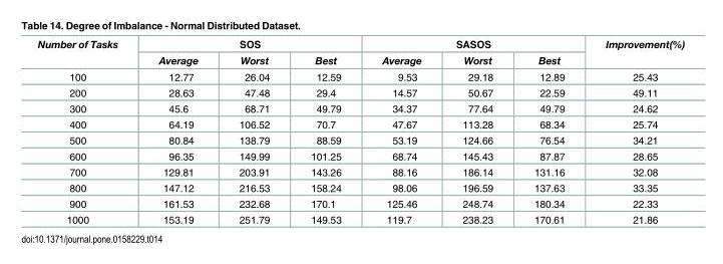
<table><thead><tr><td rowspan="2">Number of Tasks</td><td colspan="3">SOS</td><td colspan="3">SASOS</td><td rowspan="2">Improvement(%)</td></tr><tr><td>Average</td><td>Worst</td><td>Best</td><td>Average</td><td>Worst</td><td>Best</td></tr></thead><tbody><tr><td>100</td><td>12.77</td><td>26.04</td><td>12.59</td><td>9.53</td><td>29.18</td><td>12.89</td><td>25.43</td></tr><tr><td>200</td><td>28.63</td><td>47.48</td><td>29.4</td><td>14.57</td><td>50.67</td><td>22.59</td><td>49.11</td></tr><tr><td>300</td><td>45.6</td><td>68.71</td><td>49.79</td><td>34.37</td><td>77.64</td><td>49.79</td><td>24.62</td></tr><tr><td>400</td><td>64.19</td><td>106.52</td><td>70.7</td><td>47.67</td><td>113.28</td><td>68.34</td><td>25.74</td></tr><tr><td>500</td><td>80.84</td><td>138.79</td><td>88.59</td><td>53.19</td><td>124.66</td><td>76.54</td><td>34.21</td></tr><tr><td>600</td><td>96.35</td><td>149.99</td><td>101.25</td><td>68.74</td><td>145.43</td><td>87.87</td><td>28.65</td></tr><tr><td>700</td><td>129.81</td><td>203.91</td><td>143.26</td><td>88.16</td><td>186.14</td><td>131.16</td><td>32.08</td></tr><tr><td>800</td><td>147.12</td><td>216.53</td><td>158.24</td><td>98.06</td><td>196.59</td><td>137.63</td><td>33.35</td></tr><tr><td>900</td><td>161.53</td><td>232.68</td><td>170.1</td><td>125.46</td><td>248.74</td><td>180.34</td><td>22.33</td></tr><tr><td>1000</td><td>153.19</td><td>251.79</td><td>149.53</td><td>119.7</td><td>238.23</td><td>170.61</td><td>21.86</td></tr></tbody></table>